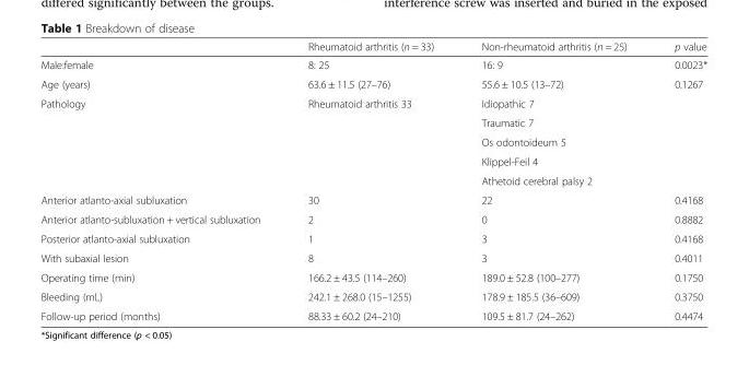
<table><thead><tr><td></td><td>Rheumatoid arthritis (n = 33)</td><td>Non-rheumatoid arthritis (n = 25)</td><td>p value</td></tr></thead><tbody><tr><td>Male:female</td><td>8: 25</td><td>16: 9</td><td>0.0023*</td></tr><tr><td>Age (years)</td><td>63.6 ± 11.5 (27–76)</td><td>55.6 ± 10.5 (13–72)</td><td>0.1267</td></tr><tr><td rowspan="5">Pathology</td><td rowspan="5">Rheumatoid arthritis 33</td><td>Idiopathic 7</td><td rowspan="5"></td></tr><tr><td>Traumatic 7</td></tr><tr><td>Os odontoideum 5</td></tr><tr><td>Klippel-Feil 4</td></tr><tr><td>Athetoid cerebral palsy 2</td></tr><tr><td>Anterior atlanto-axial subluxation</td><td>30</td><td>22</td><td>0.4168</td></tr><tr><td>Anterior atlanto-subluxation + vertical subluxation</td><td>2</td><td>0</td><td>0.8882</td></tr><tr><td>Posterior atlanto-axial subluxation</td><td>1</td><td>3</td><td>0.4168</td></tr><tr><td>With subaxial lesion</td><td>8</td><td>3</td><td>0.4011</td></tr><tr><td>Operating time (min)</td><td>166.2 ± 43.5 (114–260)</td><td>189.0 ± 52.8 (100–277)</td><td>0.1750</td></tr><tr><td>Bleeding (mL)</td><td>242.1 ± 268.0 (15–1255)</td><td>178.9 ± 185.5 (36–609)</td><td>0.3750</td></tr><tr><td>Follow-up period (months)</td><td>88.33 ± 60.2 (24–210)</td><td>109.5 ± 81.7 (24–262)</td><td>0.4474</td></tr></tbody></table>